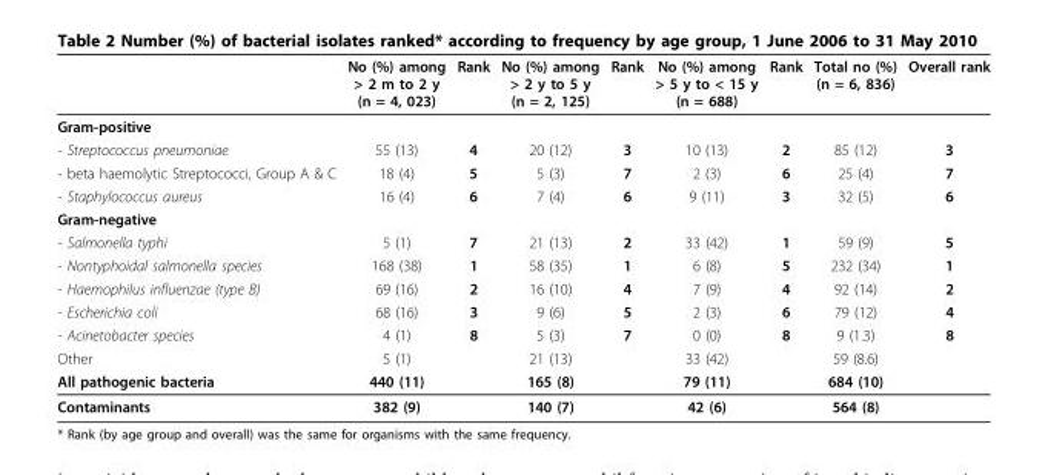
<table><thead><tr><td></td><td>No (%) among &gt; 2 m to 2 y (n = 4, 023)</td><td>Rank</td><td>No (%) among &gt; 2 y to 5 y (n = 2, 125)</td><td>Rank</td><td>No (%) among &gt; 5 y to &lt; 15 y (n = 688)</td><td>Rank</td><td>Total no (%) (n = 6, 836)</td><td>Overall rank</td></tr></thead><tbody><tr><td colspan="9">Gram-positive</td></tr><tr><td>- Streptococcus pneumoniae</td><td>55 (13)</td><td>4</td><td>20 (12)</td><td>3</td><td>10 (13)</td><td>2</td><td>85 (12)</td><td>3</td></tr><tr><td>- beta haemolytic Streptococci, Group A &amp; C</td><td>18 (4)</td><td>5</td><td>5 (3)</td><td>7</td><td>2 (3)</td><td>6</td><td>25 (4)</td><td>7</td></tr><tr><td>- Staphylococcus aureus</td><td>16 (4)</td><td>6</td><td>7 (4)</td><td>6</td><td>9 (11)</td><td>3</td><td>32 (5)</td><td>6</td></tr><tr><td colspan="9">Gram-negative</td></tr><tr><td>- Salmonella typhi</td><td>5 (1)</td><td>7</td><td>21 (13)</td><td>2</td><td>33 (42)</td><td>1</td><td>59 (9)</td><td>5</td></tr><tr><td>- Nontyphoidal salmonella species</td><td>168 (38)</td><td>1</td><td>58 (35)</td><td>1</td><td>6 (8)</td><td>5</td><td>232 (34)</td><td>1</td></tr><tr><td>- Haemophilus influenzae (type B)</td><td>69 (16)</td><td>2</td><td>16 (10)</td><td>4</td><td>7 (9)</td><td>4</td><td>92 (14)</td><td>2</td></tr><tr><td>- Escherichia coli</td><td>68 (16)</td><td>3</td><td>9 (6)</td><td>5</td><td>2 (3)</td><td>6</td><td>79 (12)</td><td>4</td></tr><tr><td>- Acinetobacter species</td><td>4 (1)</td><td>8</td><td>5 (3)</td><td>7</td><td>0 (0)</td><td>8</td><td>9 (1.3)</td><td>8</td></tr><tr><td>Other</td><td>5 (1)</td><td></td><td>21 (13)</td><td></td><td>33 (42)</td><td></td><td>59 (8.6)</td><td></td></tr><tr><td>All pathogenic bacteria</td><td>440 (11)</td><td></td><td>165 (8)</td><td></td><td>79 (11)</td><td></td><td>684 (10)</td><td></td></tr><tr><td>Contaminants</td><td>382 (9)</td><td></td><td>140 (7)</td><td></td><td>42 (6)</td><td></td><td>564 (8)</td><td></td></tr></tbody></table>